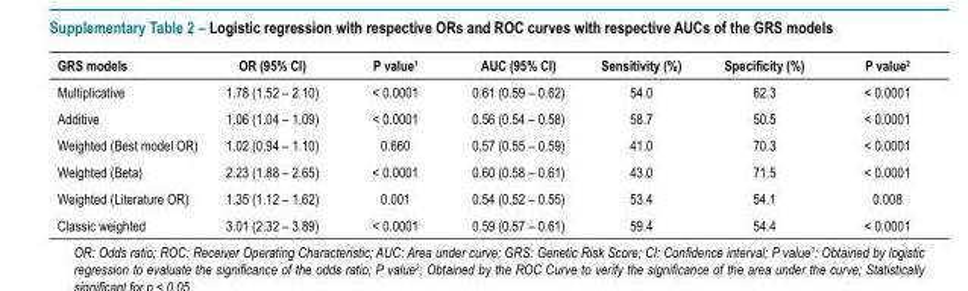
<table><thead><tr><td>GRS models</td><td>OR (95% CI)</td><td>P value<sup>1</sup></td><td>AUC (95% CI)</td><td>Sensitivity (%)</td><td>Specificity (%)</td><td>P value<sup>2</sup></td></tr></thead><tbody><tr><td>Multiplicative</td><td>1.78 (1.52 – 2.10)</td><td>&lt; 0.0001</td><td>0.61 (0.59 – 0.62)</td><td>54.0</td><td>62.3</td><td>&lt; 0.0001</td></tr><tr><td>Additive</td><td>1.06 (1.04 – 1.09)</td><td>&lt; 0.0001</td><td>0.56 (0.54 – 0.58)</td><td>58.7</td><td>50.5</td><td>&lt; 0.0001</td></tr><tr><td>Weighted (Best model OR)</td><td>1.02 (0.94 – 1.10)</td><td>0.660</td><td>0.57 (0.55 – 0.59)</td><td>41.0</td><td>70.3</td><td>&lt; 0.0001</td></tr><tr><td>Weighted (Beta)</td><td>2.23 (1.88 – 2.65)</td><td>&lt; 0.0001</td><td>0.60 (0.58 – 0.61)</td><td>43.0</td><td>71.5</td><td>&lt; 0.0001</td></tr><tr><td>Weighted (Literature OR)</td><td>1.35 (1.12 – 1.62)</td><td>0.001</td><td>0.54 (0.52 – 0.55)</td><td>53.4</td><td>54.1</td><td>0.008</td></tr><tr><td>Classic weighted</td><td>3.01 (2.32 – 3.89)</td><td>&lt; 0.0001</td><td>0.59 (0.57 – 0.61)</td><td>59.4</td><td>54.4</td><td>&lt; 0.0001</td></tr></tbody></table>